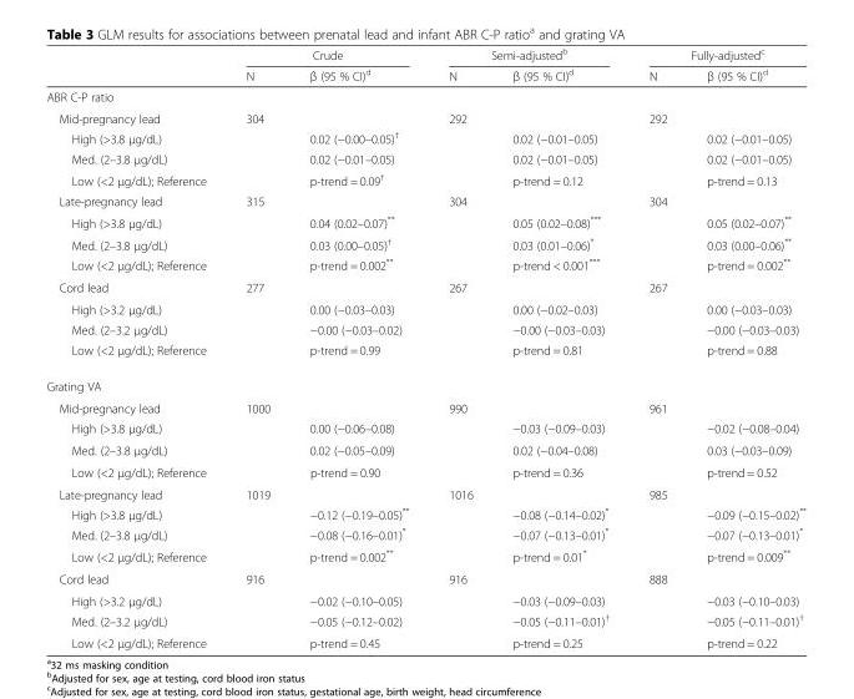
<table><thead><tr><td rowspan="2"></td><td colspan="2">Crude</td><td colspan="2">Semi-adjusted<sup>b</sup></td><td colspan="2">Fully-adjusted<sup>c</sup></td></tr><tr><td>N</td><td>β (95 % CI)<sup>d</sup></td><td>N</td><td>β (95 % CI)<sup>d</sup></td><td>N</td><td>β (95 % CI)<sup>d</sup></td></tr></thead><tbody><tr><td colspan="7">ABR C-P ratio</td></tr><tr><td>Mid-pregnancy lead</td><td>304</td><td></td><td>292</td><td></td><td>292</td><td></td></tr><tr><td>High (&gt;3.8 μg/dL)</td><td></td><td>0.02 (−0.00–0.05)<sup>†</sup></td><td></td><td>0.02 (−0.01–0.05)</td><td></td><td>0.02 (−0.01–0.05)</td></tr><tr><td>Med. (2–3.8 μg/dL)</td><td></td><td>0.02 (−0.01–0.05)</td><td></td><td>0.02 (−0.01–0.05)</td><td></td><td>0.02 (−0.01–0.05)</td></tr><tr><td>Low (&lt;2 μg/dL); Reference</td><td></td><td>p-trend = 0.09<sup>†</sup></td><td></td><td>p-trend = 0.12</td><td></td><td>p-trend = 0.13</td></tr><tr><td>Late-pregnancy lead</td><td>315</td><td></td><td>304</td><td></td><td>304</td><td></td></tr><tr><td>High (&gt;3.8 μg/dL)</td><td></td><td>0.04 (0.02–0.07)**</td><td></td><td>0.05 (0.02–0.08)***</td><td></td><td>0.05 (0.02–0.07)**</td></tr><tr><td>Med. (2–3.8 μg/dL)</td><td></td><td>0.03 (0.00–0.05)<sup>†</sup></td><td></td><td>0.03 (0.01–0.06)*</td><td></td><td>0.03 (0.00–0.06)**</td></tr><tr><td>Low (&lt;2 μg/dL); Reference</td><td></td><td>p-trend = 0.002**</td><td></td><td>p-trend &lt; 0.001***</td><td></td><td>p-trend = 0.002**</td></tr><tr><td>Cord lead</td><td>277</td><td></td><td>267</td><td></td><td>267</td><td></td></tr><tr><td>High (&gt;3.2 μg/dL)</td><td></td><td>0.00 (−0.03–0.03)</td><td></td><td>0.00 (−0.02–0.03)</td><td></td><td>0.00 (−0.03–0.03)</td></tr><tr><td>Med. (2–3.2 μg/dL)</td><td></td><td>−0.00 (−0.03–0.02)</td><td></td><td>−0.00 (−0.03–0.03)</td><td></td><td>−0.00 (−0.03–0.03)</td></tr><tr><td>Low (&lt;2 μg/dL); Reference</td><td></td><td>p-trend = 0.99</td><td></td><td>p-trend = 0.81</td><td></td><td>p-trend = 0.88</td></tr><tr><td colspan="7">Grating VA</td></tr><tr><td>Mid-pregnancy lead</td><td>1000</td><td></td><td>990</td><td></td><td>961</td><td></td></tr><tr><td>High (&gt;3.8 μg/dL)</td><td></td><td>0.00 (−0.06–0.08)</td><td></td><td>−0.03 (−0.09–0.03)</td><td></td><td>−0.02 (−0.08–0.04)</td></tr><tr><td>Med. (2–3.8 μg/dL)</td><td></td><td>0.02 (−0.05–0.09)</td><td></td><td>0.02 (−0.04–0.08)</td><td></td><td>0.03 (−0.03–0.09)</td></tr><tr><td>Low (&lt;2 μg/dL); Reference</td><td></td><td>p-trend = 0.90</td><td></td><td>p-trend = 0.36</td><td></td><td>p-trend = 0.52</td></tr><tr><td>Late-pregnancy lead</td><td>1019</td><td></td><td>1016</td><td></td><td>985</td><td></td></tr><tr><td>High (&gt;3.8 μg/dL)</td><td></td><td>−0.12 (−0.19–0.05)**</td><td></td><td>−0.08 (−0.14–0.02)*</td><td></td><td>−0.09 (−0.15–0.02)**</td></tr><tr><td>Med. (2–3.8 μg/dL)</td><td></td><td>−0.08 (−0.16–0.01)*</td><td></td><td>−0.07 (−0.13–0.01)*</td><td></td><td>−0.07 (−0.13–0.01)*</td></tr><tr><td>Low (&lt;2 μg/dL); Reference</td><td></td><td>p-trend = 0.002**</td><td></td><td>p-trend = 0.01*</td><td></td><td>p-trend = 0.009**</td></tr><tr><td>Cord lead</td><td>916</td><td></td><td>916</td><td></td><td>888</td><td></td></tr><tr><td>High (&gt;3.2 μg/dL)</td><td></td><td>−0.02 (−0.10–0.05)</td><td></td><td>−0.03 (−0.09–0.03)</td><td></td><td>−0.03 (−0.10–0.03)</td></tr><tr><td>Med. (2–3.2 μg/dL)</td><td></td><td>−0.05 (−0.12–0.02)</td><td></td><td>−0.05 (−0.11–0.01)<sup>†</sup></td><td></td><td>−0.05 (−0.11–0.01)<sup>†</sup></td></tr><tr><td>Low (&lt;2 μg/dL); Reference</td><td></td><td>p-trend = 0.45</td><td></td><td>p-trend = 0.25</td><td></td><td>p-trend = 0.22</td></tr></tbody></table>